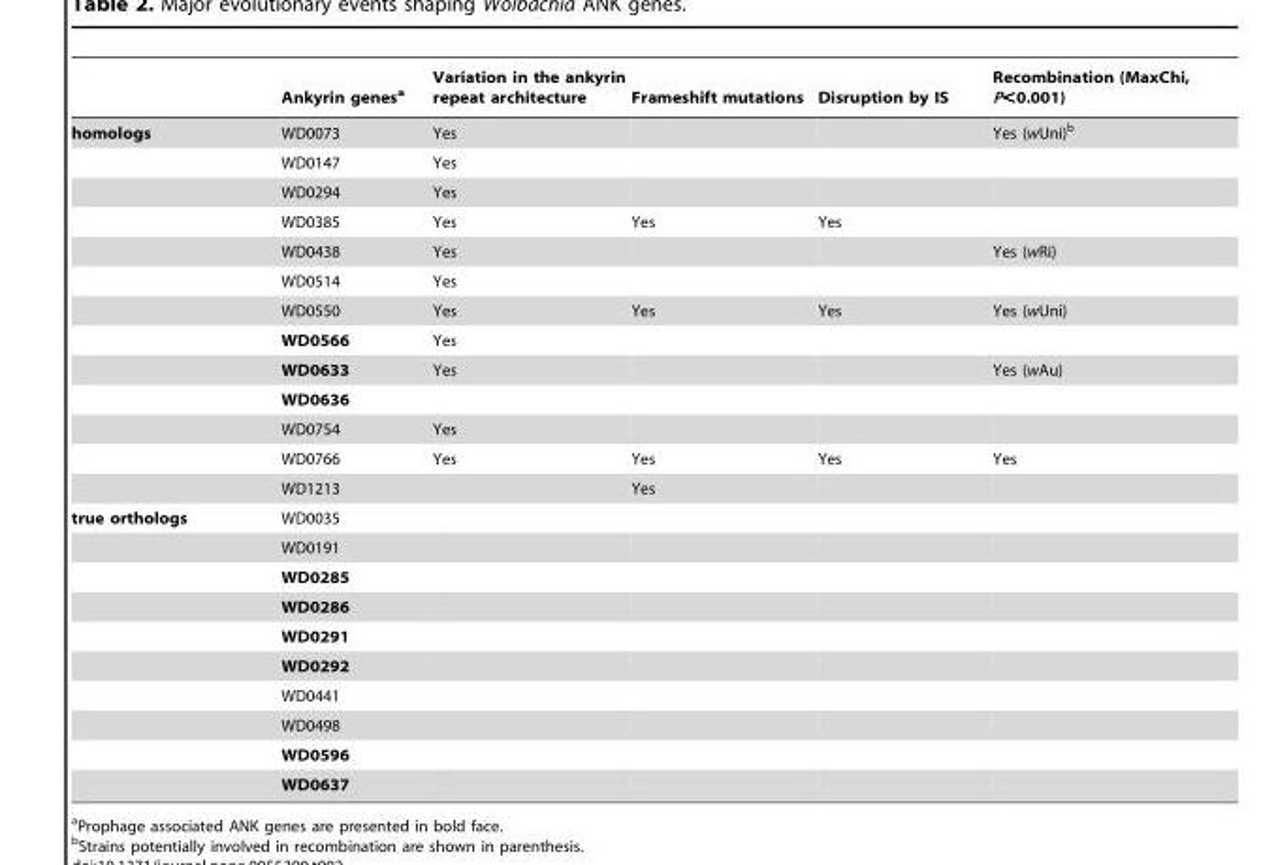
<table><thead><tr><td></td><td>Ankyrin genes<sup>a</sup></td><td>Variation in the ankyrin repeat architecture</td><td>Frameshift mutations</td><td>Disruption by IS</td><td>Recombination (MaxChi, P&lt;0.001)</td></tr></thead><tbody><tr><td rowspan="13">homologs</td><td>WD0073</td><td>Yes</td><td></td><td></td><td>Yes (wUni)<sup>b</sup></td></tr><tr><td>WD0147</td><td>Yes</td><td></td><td></td><td></td></tr><tr><td>WD0294</td><td>Yes</td><td></td><td></td><td></td></tr><tr><td>WD0385</td><td>Yes</td><td>Yes</td><td>Yes</td><td></td></tr><tr><td>WD0438</td><td>Yes</td><td></td><td></td><td>Yes (wRi)</td></tr><tr><td>WD0514</td><td>Yes</td><td></td><td></td><td></td></tr><tr><td>WD0550</td><td>Yes</td><td>Yes</td><td>Yes</td><td>Yes (wUni)</td></tr><tr><td>WD0566</td><td>Yes</td><td></td><td></td><td></td></tr><tr><td>WD0633</td><td>Yes</td><td></td><td></td><td>Yes (wAu)</td></tr><tr><td>WD0636</td><td></td><td></td><td></td><td></td></tr><tr><td>WD0754</td><td>Yes</td><td></td><td></td><td></td></tr><tr><td>WD0766</td><td>Yes</td><td>Yes</td><td>Yes</td><td>Yes</td></tr><tr><td>WD1213</td><td></td><td>Yes</td><td></td><td></td></tr><tr><td rowspan="10">true orthologs</td><td>WD0035</td><td></td><td></td><td></td><td></td></tr><tr><td>WD0191</td><td></td><td></td><td></td><td></td></tr><tr><td>WD0285</td><td></td><td></td><td></td><td></td></tr><tr><td>WD0286</td><td></td><td></td><td></td><td></td></tr><tr><td>WD0291</td><td></td><td></td><td></td><td></td></tr><tr><td>WD0292</td><td></td><td></td><td></td><td></td></tr><tr><td>WD0441</td><td></td><td></td><td></td><td></td></tr><tr><td>WD0498</td><td></td><td></td><td></td><td></td></tr><tr><td>WD0596</td><td></td><td></td><td></td><td></td></tr><tr><td>WD0637</td><td></td><td></td><td></td><td></td></tr></tbody></table>